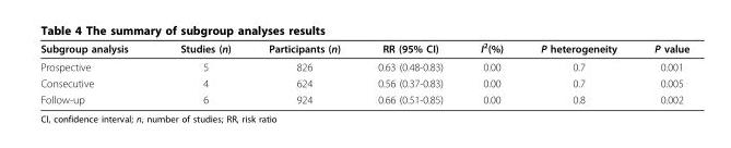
<table><thead><tr><td>Subgroup analysis</td><td>Studies (n)</td><td>Participants (n)</td><td>RR (95% CI)</td><td>I<sup>2</sup>(%)</td><td>P heterogeneity</td><td>P value</td></tr></thead><tbody><tr><td>Prospective</td><td>5</td><td>826</td><td>0.63 (0.48-0.83)</td><td>0.00</td><td>0.7</td><td>0.001</td></tr><tr><td>Consecutive</td><td>4</td><td>624</td><td>0.56 (0.37-0.83)</td><td>0.00</td><td>0.7</td><td>0.005</td></tr><tr><td>Follow-up</td><td>6</td><td>924</td><td>0.66 (0.51-0.85)</td><td>0.00</td><td>0.8</td><td>0.002</td></tr></tbody></table>